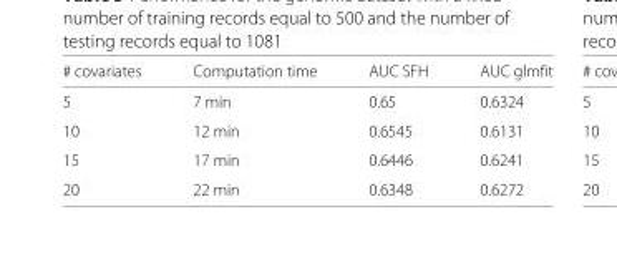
<table><thead><tr><td># covariates</td><td>Computation time</td><td>AUC SFH</td><td>AUC glmfit</td></tr></thead><tbody><tr><td>5</td><td>7 min</td><td>0.65</td><td>0.6324</td></tr><tr><td>10</td><td>12 min</td><td>0.6545</td><td>0.6131</td></tr><tr><td>15</td><td>17 min</td><td>0.6446</td><td>0.6241</td></tr><tr><td>20</td><td>22 min</td><td>0.6348</td><td>0.6272</td></tr></tbody></table>